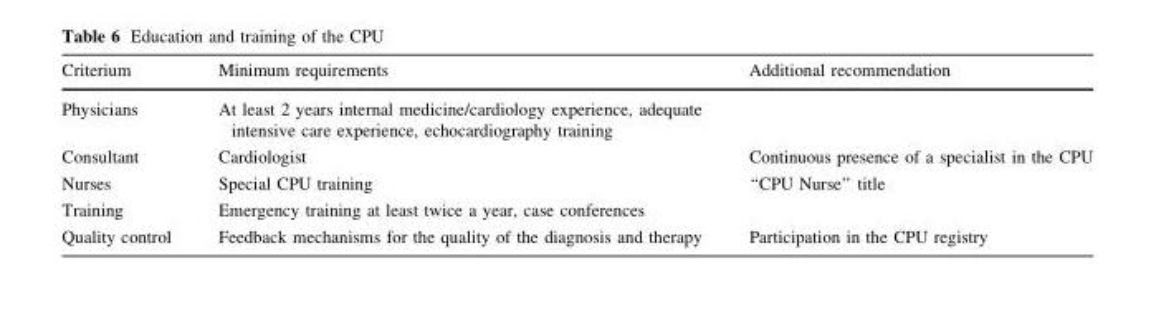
<table><thead><tr><td>Criterium</td><td>Minimum requirements</td><td>Additional recommendation</td></tr></thead><tbody><tr><td>Physicians</td><td>At least 2 years internal medicine/cardiology experience, adequate intensive care experience, echocardiography training</td><td></td></tr><tr><td>Consultant</td><td>Cardiologist</td><td>Continuous presence of a specialist in the CPU</td></tr><tr><td>Nurses</td><td>Special CPU training</td><td>‘‘CPU Nurse’’ title</td></tr><tr><td>Training</td><td>Emergency training at least twice a year, case conferences</td><td></td></tr><tr><td>Quality control</td><td>Feedback mechanisms for the quality of the diagnosis and therapy</td><td>Participation in the CPU registry</td></tr></tbody></table>